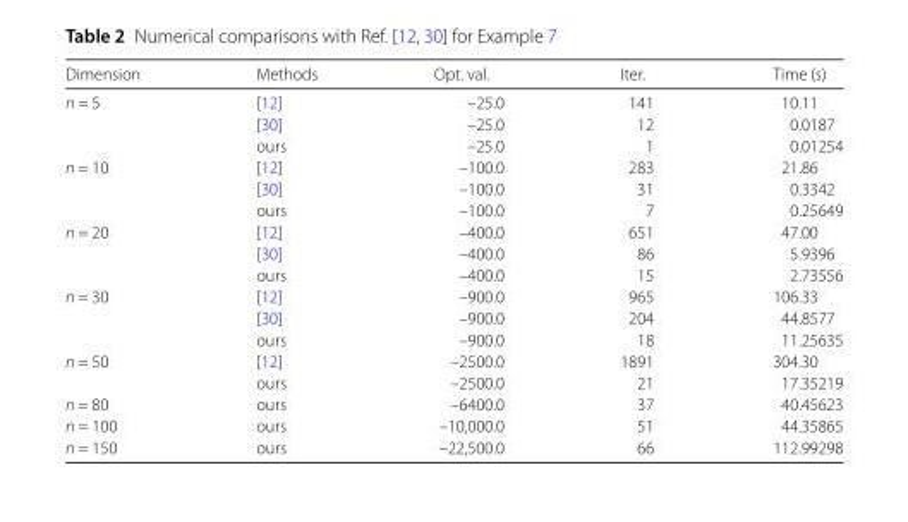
<table><thead><tr><td>Dimension</td><td>Methods</td><td>Opt. val.</td><td>Iter.</td><td>Time (s)</td></tr></thead><tbody><tr><td rowspan="3">n = 5</td><td>[12]</td><td>–25.0</td><td>141</td><td>10.11</td></tr><tr><td>[30]</td><td>–25.0</td><td>12</td><td>0.0187</td></tr><tr><td>ours</td><td>–25.0</td><td>1</td><td>0.01254</td></tr><tr><td rowspan="3">n = 10</td><td>[12]</td><td>–100.0</td><td>283</td><td>21.86</td></tr><tr><td>[30]</td><td>–100.0</td><td>31</td><td>0.3342</td></tr><tr><td>ours</td><td>–100.0</td><td>7</td><td>0.25649</td></tr><tr><td rowspan="3">n = 20</td><td>[12]</td><td>–400.0</td><td>651</td><td>47.00</td></tr><tr><td>[30]</td><td>–400.0</td><td>86</td><td>5.9396</td></tr><tr><td>ours</td><td>–400.0</td><td>15</td><td>2.73556</td></tr><tr><td rowspan="3">n = 30</td><td>[12]</td><td>–900.0</td><td>965</td><td>106.33</td></tr><tr><td>[30]</td><td>–900.0</td><td>204</td><td>44.8577</td></tr><tr><td>ours</td><td>–900.0</td><td>18</td><td>11.25635</td></tr><tr><td rowspan="2">n = 50</td><td>[12]</td><td>–2500.0</td><td>1891</td><td>304.30</td></tr><tr><td>ours</td><td>–2500.0</td><td>21</td><td>17.35219</td></tr><tr><td>n = 80</td><td>ours</td><td>–6400.0</td><td>37</td><td>40.45623</td></tr><tr><td>n = 100</td><td>ours</td><td>–10,000.0</td><td>51</td><td>44.35865</td></tr><tr><td>n = 150</td><td>ours</td><td>–22,500.0</td><td>66</td><td>112.99298</td></tr></tbody></table>